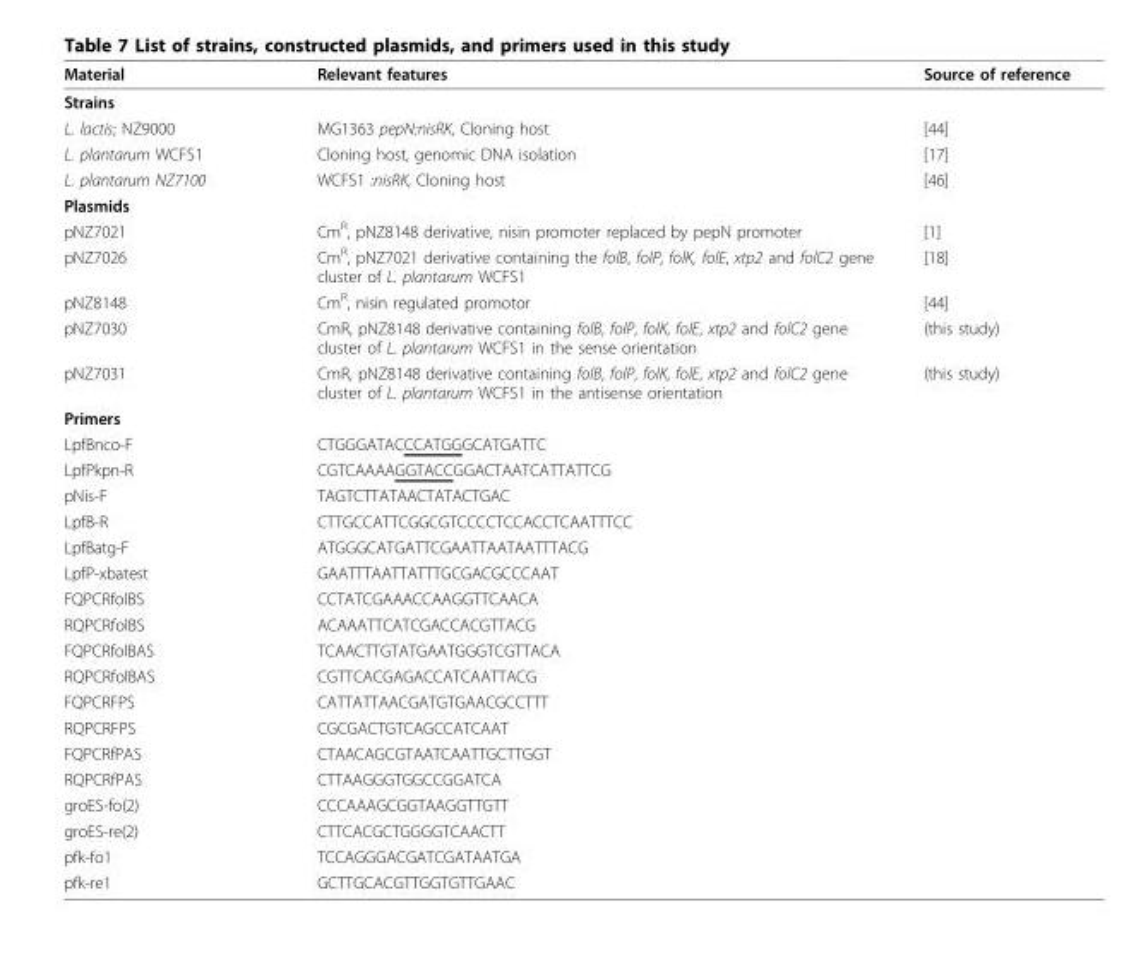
<table><thead><tr><td>Material</td><td>Relevant features</td><td>Source of reference</td></tr></thead><tbody><tr><td colspan="3">Strains</td></tr><tr><td>L. lactis; NZ9000</td><td>MG1363 pepN:nisRK, Cloning host</td><td>[44]</td></tr><tr><td>L. plantarum WCFS1</td><td>Cloning host, genomic DNA isolation</td><td>[17]</td></tr><tr><td>L. plantarum NZ7100</td><td>WCFS1 :nisRK, Cloning host</td><td>[46]</td></tr><tr><td colspan="3">Plasmids</td></tr><tr><td>pNZ7021</td><td>Cm<sup>R</sup>, pNZ8148 derivative, nisin promoter replaced by pepN promoter</td><td>[1]</td></tr><tr><td>pNZ7026</td><td>Cm<sup>R</sup>, pNZ7021 derivative containing the folB, folP, folK, folE, xtp2 and folC2 gene cluster of L. plantarum WCFS1</td><td>[18]</td></tr><tr><td>pNZ8148</td><td>Cm<sup>R</sup>, nisin regulated promotor</td><td>[44]</td></tr><tr><td>pNZ7030</td><td>CmR, pNZ8148 derivative containing folB, folP, folK, folE, xtp2 and folC2 gene cluster of L. plantarum WCFS1 in the sense orientation</td><td>(this study)</td></tr><tr><td>pNZ7031</td><td>CmR, pNZ8148 derivative containing folB, folP, folK, folE, xtp2 and folC2 gene cluster of L. plantarum WCFS1 in the antisense orientation</td><td>(this study)</td></tr><tr><td colspan="3">Primers</td></tr><tr><td>LpfBnco-F</td><td>CTGGGATACCCATGGGCATGATTC</td><td></td></tr><tr><td>LpfPkpn-R</td><td>CGTCAAAAGGTACCGGACTAATCATTATTCG</td><td></td></tr><tr><td>pNis-F</td><td>TAGTCTTATAACTATACTGAC</td><td></td></tr><tr><td>LpfB-R</td><td>CTTGCCATTCGGCGTCCCCTCCACCTCAATTTCC</td><td></td></tr><tr><td>LpfBatg-F</td><td>ATGGGCATGATTCGAATTAATAATTTACG</td><td></td></tr><tr><td>LpfP-xbatest</td><td>GAATTTAATTATTTGCGACGCCCAAT</td><td></td></tr><tr><td>FQPCRfolBS</td><td>CCTATCGAAACCAAGGTTCAACA</td><td></td></tr><tr><td>RQPCRfolBS</td><td>ACAAATTCATCGACCACGTTACG</td><td></td></tr><tr><td>FQPCRfolBAS</td><td>TCAACTTGTATGAATGGGTCGTTACA</td><td></td></tr><tr><td>RQPCRfolBAS</td><td>CGTTCACGAGACCATCAATTACG</td><td></td></tr><tr><td>FQPCRFPS</td><td>CATTATTAACGATGTGAACGCCTTT</td><td></td></tr><tr><td>RQPCRFPS</td><td>CGCGACTGTCAGCCATCAAT</td><td></td></tr><tr><td>FQPCRfPAS</td><td>CTAACAGCGTAATCAATTGCTTGGT</td><td></td></tr><tr><td>RQPCRfPAS</td><td>CTTAAGGGTGGCCGGATCA</td><td></td></tr><tr><td>groES-fo(2)</td><td>CCCAAAGCGGTAAGGTTGTT</td><td></td></tr><tr><td>groES-re(2)</td><td>CTTCACGCTGGGGTCAACTT</td><td></td></tr><tr><td>pfk-fo1</td><td>TCCAGGGACGATCGATAATGA</td><td></td></tr><tr><td>pfk-re1</td><td>GCTTGCACGTTGGTGTTGAAC</td><td></td></tr></tbody></table>